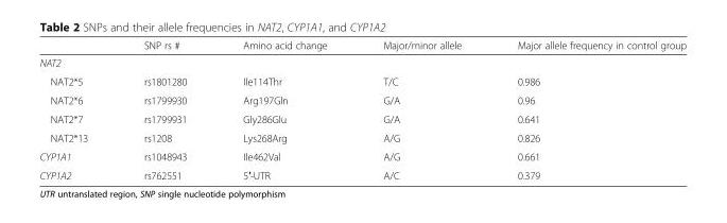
<table><thead><tr><td></td><td>SNP rs #</td><td>Amino acid change</td><td>Major/minor allele</td><td>Major allele frequency in control group</td></tr></thead><tbody><tr><td colspan="5">NAT2</td></tr><tr><td>NAT2*5</td><td>rs1801280</td><td>Ile114Thr</td><td>T/C</td><td>0.986</td></tr><tr><td>NAT2*6</td><td>rs1799930</td><td>Arg197Gln</td><td>G/A</td><td>0.96</td></tr><tr><td>NAT2*7</td><td>rs1799931</td><td>Gly286Glu</td><td>G/A</td><td>0.641</td></tr><tr><td>NAT2*13</td><td>rs1208</td><td>Lys268Arg</td><td>A/G</td><td>0.826</td></tr><tr><td>CYP1A1</td><td>rs1048943</td><td>Ile462Val</td><td>A/G</td><td>0.661</td></tr><tr><td>CYP1A2</td><td>rs762551</td><td>5′-UTR</td><td>A/C</td><td>0.379</td></tr></tbody></table>